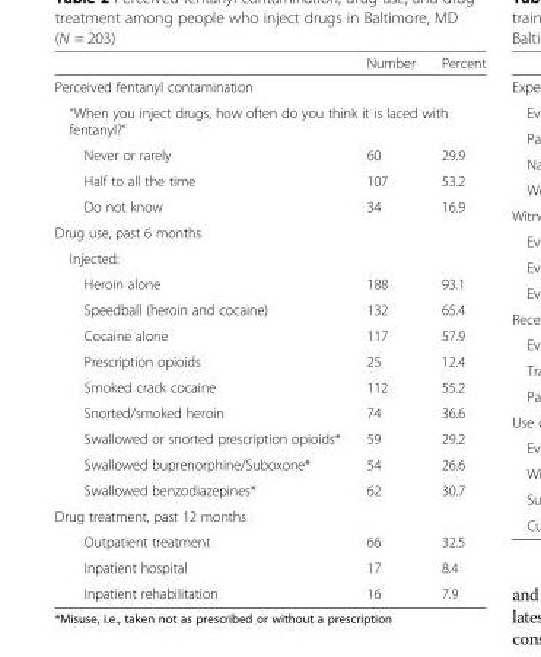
<table><thead><tr><td></td><td>Number</td><td>Percent</td></tr></thead><tbody><tr><td colspan="3">Perceived fentanyl contamination</td></tr><tr><td colspan="3">“When you inject drugs, how often do you think it is laced with fentanyl?”</td></tr><tr><td>Never or rarely</td><td>60</td><td>29.9</td></tr><tr><td>Half to all the time</td><td>107</td><td>53.2</td></tr><tr><td>Do not know</td><td>34</td><td>16.9</td></tr><tr><td colspan="3">Drug use, past 6 months</td></tr><tr><td colspan="3">Injected:</td></tr><tr><td>Heroin alone</td><td>188</td><td>93.1</td></tr><tr><td>Speedball (heroin and cocaine)</td><td>132</td><td>65.4</td></tr><tr><td>Cocaine alone</td><td>117</td><td>57.9</td></tr><tr><td>Prescription opioids</td><td>25</td><td>12.4</td></tr><tr><td>Smoked crack cocaine</td><td>112</td><td>55.2</td></tr><tr><td>Snorted/smoked heroin</td><td>74</td><td>36.6</td></tr><tr><td>Swallowed or snorted prescription opioids*</td><td>59</td><td>29.2</td></tr><tr><td>Swallowed buprenorphine/Suboxone*</td><td>54</td><td>26.6</td></tr><tr><td>Swallowed benzodiazepines*</td><td>62</td><td>30.7</td></tr><tr><td colspan="3">Drug treatment, past 12 months</td></tr><tr><td>Outpatient treatment</td><td>66</td><td>32.5</td></tr><tr><td>Inpatient hospital</td><td>17</td><td>8.4</td></tr><tr><td>Inpatient rehabilitation</td><td>16</td><td>7.9</td></tr></tbody></table>